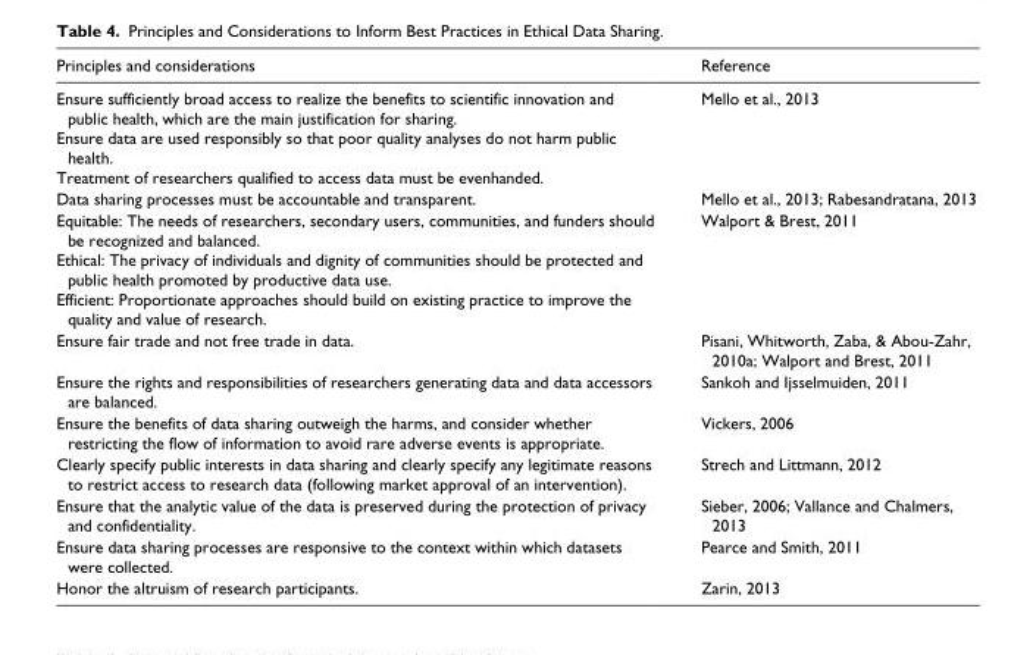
<table><thead><tr><td>Principles and considerations</td><td>Reference</td></tr></thead><tbody><tr><td>Ensure sufficiently broad access to realize the benefits to scientific innovation and public health, which are the main justification for sharing. Ensure data are used responsibly so that poor quality analyses do not harm public health. Treatment of researchers qualified to access data must be evenhanded.</td><td>Mello et al., 2013</td></tr><tr><td>Data sharing processes must be accountable and transparent.</td><td>Mello et al., 2013; Rabesandratana, 2013</td></tr><tr><td>Equitable: The needs of researchers, secondary users, communities, and funders should be recognized and balanced. Ethical: The privacy of individuals and dignity of communities should be protected and public health promoted by productive data use. Efficient: Proportionate approaches should build on existing practice to improve the quality and value of research.</td><td>Walport &amp; Brest, 2011</td></tr><tr><td>Ensure fair trade and not free trade in data.</td><td>Pisani, Whitworth, Zaba, &amp; Abou-Zahr, 2010a; Walport and Brest, 2011</td></tr><tr><td>Ensure the rights and responsibilities of researchers generating data and data accessors are balanced.</td><td>Sankoh and Ijsselmuiden, 2011</td></tr><tr><td>Ensure the benefits of data sharing outweigh the harms, and consider whether restricting the flow of information to avoid rare adverse events is appropriate.</td><td>Vickers, 2006</td></tr><tr><td>Clearly specify public interests in data sharing and clearly specify any legitimate reasons to restrict access to research data (following market approval of an intervention).</td><td>Strech and Littmann, 2012</td></tr><tr><td>Ensure that the analytic value of the data is preserved during the protection of privacy and confidentiality.</td><td>Sieber, 2006; Vallance and Chalmers, 2013</td></tr><tr><td>Ensure data sharing processes are responsive to the context within which datasets were collected.</td><td>Pearce and Smith, 2011</td></tr><tr><td>Honor the altruism of research participants.</td><td>Zarin, 2013</td></tr></tbody></table>